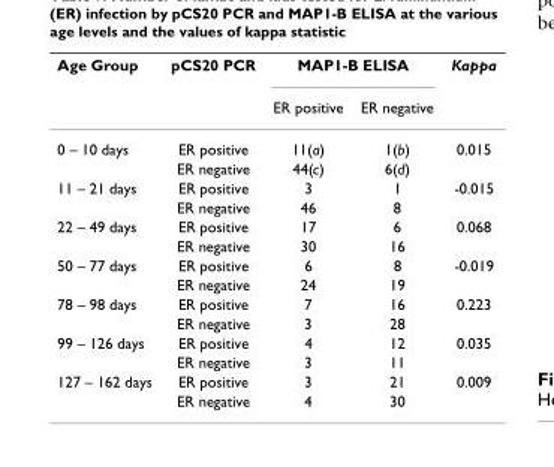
<table><thead><tr><td rowspan="2">Age Group</td><td rowspan="2">pCS20 PCR</td><td colspan="2">MAP1-B ELISA</td><td rowspan="2">Kappa</td></tr><tr><td>ER positive</td><td>ER negative</td></tr></thead><tbody><tr><td rowspan="2">0 – 10 days</td><td>ER positive</td><td>11(a)</td><td>1(b)</td><td>0.015</td></tr><tr><td>ER negative</td><td>44(c)</td><td>6(d)</td><td></td></tr><tr><td rowspan="2">11 – 21 days</td><td>ER positive</td><td>3</td><td>1</td><td>-0.015</td></tr><tr><td>ER negative</td><td>46</td><td>8</td><td></td></tr><tr><td rowspan="2">22 – 49 days</td><td>ER positive</td><td>17</td><td>6</td><td>0.068</td></tr><tr><td>ER negative</td><td>30</td><td>16</td><td></td></tr><tr><td rowspan="2">50 – 77 days</td><td>ER positive</td><td>6</td><td>8</td><td>-0.019</td></tr><tr><td>ER negative</td><td>24</td><td>19</td><td></td></tr><tr><td rowspan="2">78 – 98 days</td><td>ER positive</td><td>7</td><td>16</td><td>0.223</td></tr><tr><td>ER negative</td><td>3</td><td>28</td><td></td></tr><tr><td rowspan="2">99 – 126 days</td><td>ER positive</td><td>4</td><td>12</td><td>0.035</td></tr><tr><td>ER negative</td><td>3</td><td>11</td><td></td></tr><tr><td rowspan="2">127 – 162 days</td><td>ER positive</td><td>3</td><td>21</td><td>0.009</td></tr><tr><td>ER negative</td><td>4</td><td>30</td><td></td></tr></tbody></table>